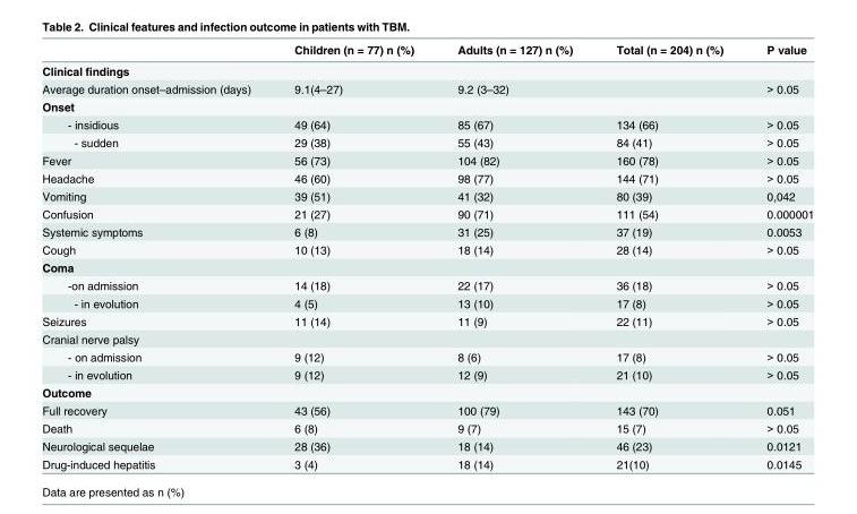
<table><thead><tr><td></td><td>Children (n = 77) n (%)</td><td>Adults (n = 127) n (%)</td><td>Total (n = 204) n (%)</td><td>P value</td></tr></thead><tbody><tr><td colspan="5">Clinical findings</td></tr><tr><td>Average duration onset–admission (days)</td><td>9.1(4–27)</td><td>9.2 (3–32)</td><td></td><td>&gt; 0.05</td></tr><tr><td colspan="5">Onset</td></tr><tr><td>- insidious</td><td>49 (64)</td><td>85 (67)</td><td>134 (66)</td><td>&gt; 0.05</td></tr><tr><td>- sudden</td><td>29 (38)</td><td>55 (43)</td><td>84 (41)</td><td>&gt; 0.05</td></tr><tr><td>Fever</td><td>56 (73)</td><td>104 (82)</td><td>160 (78)</td><td>&gt; 0.05</td></tr><tr><td>Headache</td><td>46 (60)</td><td>98 (77)</td><td>144 (71)</td><td>&gt; 0.05</td></tr><tr><td>Vomiting</td><td>39 (51)</td><td>41 (32)</td><td>80 (39)</td><td>0,042</td></tr><tr><td>Confusion</td><td>21 (27)</td><td>90 (71)</td><td>111 (54)</td><td>0.000001</td></tr><tr><td>Systemic symptoms</td><td>6 (8)</td><td>31 (25)</td><td>37 (19)</td><td>0.0053</td></tr><tr><td>Cough</td><td>10 (13)</td><td>18 (14)</td><td>28 (14)</td><td>&gt; 0.05</td></tr><tr><td colspan="5">Coma</td></tr><tr><td>-on admission</td><td>14 (18)</td><td>22 (17)</td><td>36 (18)</td><td>&gt; 0.05</td></tr><tr><td>- in evolution</td><td>4 (5)</td><td>13 (10)</td><td>17 (8)</td><td>&gt; 0.05</td></tr><tr><td>Seizures</td><td>11 (14)</td><td>11 (9)</td><td>22 (11)</td><td>&gt; 0.05</td></tr><tr><td colspan="5">Cranial nerve palsy</td></tr><tr><td>- on admission</td><td>9 (12)</td><td>8 (6)</td><td>17 (8)</td><td>&gt; 0.05</td></tr><tr><td>- in evolution</td><td>9 (12)</td><td>12 (9)</td><td>21 (10)</td><td>&gt; 0.05</td></tr><tr><td colspan="5">Outcome</td></tr><tr><td>Full recovery</td><td>43 (56)</td><td>100 (79)</td><td>143 (70)</td><td>0.051</td></tr><tr><td>Death</td><td>6 (8)</td><td>9 (7)</td><td>15 (7)</td><td>&gt; 0.05</td></tr><tr><td>Neurological sequelae</td><td>28 (36)</td><td>18 (14)</td><td>46 (23)</td><td>0.0121</td></tr><tr><td>Drug-induced hepatitis</td><td>3 (4)</td><td>18 (14)</td><td>21(10)</td><td>0.0145</td></tr></tbody></table>